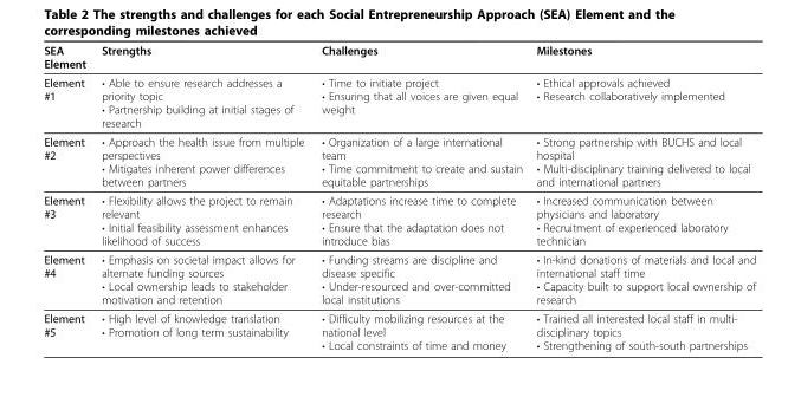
<table><thead><tr><td>SEA Element</td><td>Strengths</td><td>Challenges</td><td>Milestones</td></tr></thead><tbody><tr><td>Element #1</td><td>• Able to ensure research addresses a priority topic • Partnership building at initial stages of research</td><td>• Time to initiate project • Ensuring that all voices are given equal weight</td><td>• Ethical approvals achieved • Research collaboratively implemented</td></tr><tr><td>Element #2</td><td>• Approach the health issue from multiple perspectives • Mitigates inherent power differences between partners</td><td>• Organization of a large international team • Time commitment to create and sustain equitable partnerships</td><td>• Strong partnership with BUCHS and local hospital • Multi-disciplinary training delivered to local and international partners</td></tr><tr><td>Element #3</td><td>• Flexibility allows the project to remain relevant • Initial feasibility assessment enhances likelihood of success</td><td>• Adaptations increase time to complete research • Ensure that the adaptation does not introduce bias</td><td>• Increased communication between physicians and laboratory • Recruitment of experienced laboratory technician</td></tr><tr><td>Element #4</td><td>• Emphasis on societal impact allows for alternate funding sources • Local ownership leads to stakeholder motivation and retention</td><td>• Funding streams are discipline and disease specific • Under-resourced and over-committed local institutions</td><td>• In-kind donations of materials and local and international staff time • Capacity built to support local ownership of research</td></tr><tr><td>Element #5</td><td>• High level of knowledge translation • Promotion of long term sustainability</td><td>• Difficulty mobilizing resources at the national level • Local constraints of time and money</td><td>• Trained all interested local staff in multi- disciplinary topics • Strengthening of south-south partnerships</td></tr></tbody></table>